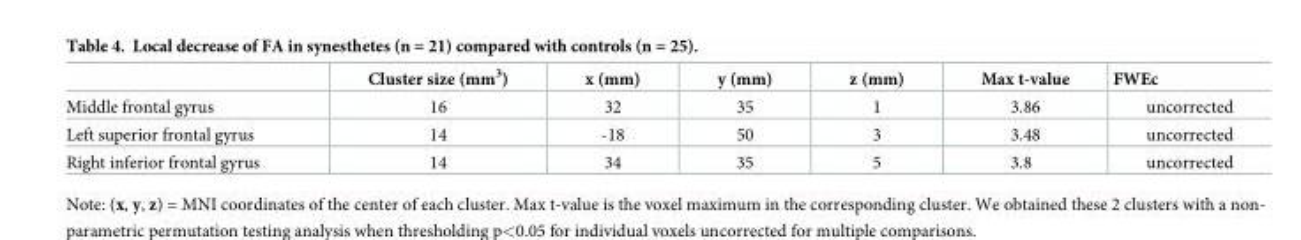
<table><thead><tr><td></td><td>Cluster size (mm<sup>3</sup>)</td><td>x (mm)</td><td>y (mm)</td><td>z (mm)</td><td>Max t-value</td><td>FWEc</td></tr></thead><tbody><tr><td>Middle frontal gyrus</td><td>16</td><td>32</td><td>35</td><td>1</td><td>3.86</td><td>uncorrected</td></tr><tr><td>Left superior frontal gyrus</td><td>14</td><td>-18</td><td>50</td><td>3</td><td>3.48</td><td>uncorrected</td></tr><tr><td>Right inferior frontal gyrus</td><td>14</td><td>34</td><td>35</td><td>5</td><td>3.8</td><td>uncorrected</td></tr></tbody></table>